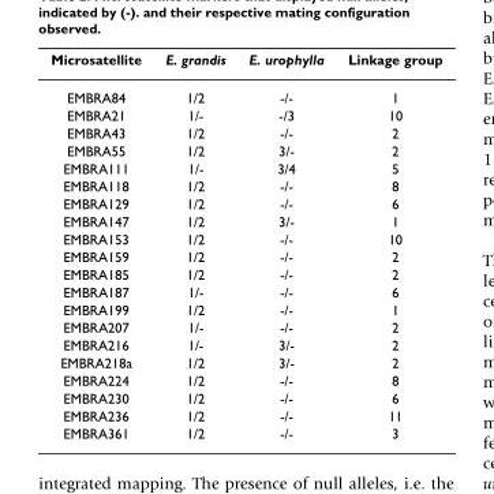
<table><thead><tr><td>Microsatellite</td><td>E. grandis</td><td>E. urophylla</td><td>Linkage group</td></tr></thead><tbody><tr><td>EMBRA84</td><td>1/2</td><td>-/-</td><td>1</td></tr><tr><td>EMBRA21</td><td>1/-</td><td>-/3</td><td>10</td></tr><tr><td>EMBRA43</td><td>1/2</td><td>-/-</td><td>2</td></tr><tr><td>EMBRA55</td><td>1/2</td><td>3/-</td><td>2</td></tr><tr><td>EMBRA111</td><td>1/-</td><td>3/4</td><td>5</td></tr><tr><td>EMBRA118</td><td>1/2</td><td>-/-</td><td>8</td></tr><tr><td>EMBRA129</td><td>1/2</td><td>-/-</td><td>6</td></tr><tr><td>EMBRA147</td><td>1/2</td><td>3/-</td><td>1</td></tr><tr><td>EMBRA153</td><td>1/2</td><td>-/-</td><td>10</td></tr><tr><td>EMBRA159</td><td>1/2</td><td>-/-</td><td>2</td></tr><tr><td>EMBRA185</td><td>1/2</td><td>-/-</td><td>2</td></tr><tr><td>EMBRA187</td><td>1/-</td><td>-/-</td><td>6</td></tr><tr><td>EMBRA199</td><td>1/2</td><td>-/-</td><td>1</td></tr><tr><td>EMBRA207</td><td>1/-</td><td>-/-</td><td>2</td></tr><tr><td>EMBRA216</td><td>1/-</td><td>3/-</td><td>2</td></tr><tr><td>EMBRA218a</td><td>1/2</td><td>3/-</td><td>2</td></tr><tr><td>EMBRA224</td><td>1/2</td><td>-/-</td><td>8</td></tr><tr><td>EMBRA230</td><td>1/2</td><td>-/-</td><td>6</td></tr><tr><td>EMBRA236</td><td>1/2</td><td>-/-</td><td>11</td></tr><tr><td>EMBRA361</td><td>1/2</td><td>-/-</td><td>3</td></tr></tbody></table>